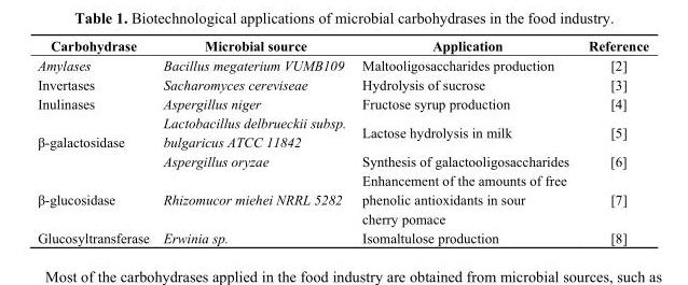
<table><thead><tr><td>Carbohydrase</td><td>Microbial source</td><td>Application</td><td>Reference</td></tr></thead><tbody><tr><td>Amylases</td><td>Bacillus megaterium VUMB109</td><td>Maltooligosaccharides production</td><td>[2]</td></tr><tr><td>Invertases</td><td>Sacharomyces cereviseae</td><td>Hydrolysis of sucrose</td><td>[3]</td></tr><tr><td>Inulinases</td><td>Aspergillus niger</td><td>Fructose syrup production</td><td>[4]</td></tr><tr><td rowspan="2">β-galactosidase</td><td>Lactobacillus delbrueckii subsp. bulgaricus ATCC 11842</td><td>Lactose hydrolysis in milk</td><td>[5]</td></tr><tr><td>Aspergillus oryzae</td><td>Synthesis of galactooligosaccharides</td><td>[6]</td></tr><tr><td>β-glucosidase</td><td>Rhizomucor miehei NRRL 5282</td><td>Enhancement of the amounts of free phenolic antioxidants in sour cherry pomace</td><td>[7]</td></tr><tr><td>Glucosyltransferase</td><td>Erwinia sp.</td><td>Isomaltulose production</td><td>[8]</td></tr></tbody></table>